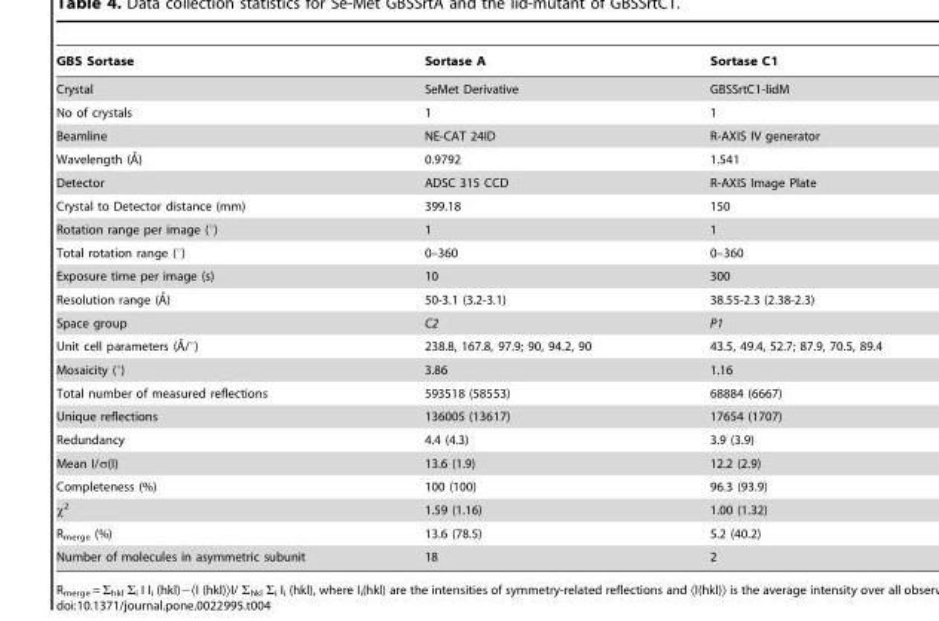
<table><thead><tr><td>GBS Sortase</td><td>Sortase A</td><td>Sortase C1</td></tr></thead><tbody><tr><td>Crystal</td><td>SeMet Derivative</td><td>GBSSrtC1-lidM</td></tr><tr><td>No of crystals</td><td>1</td><td>1</td></tr><tr><td>Beamline</td><td>NE-CAT 24ID</td><td>R-AXIS IV generator</td></tr><tr><td>Wavelength (A˚)</td><td>0.9792</td><td>1.541</td></tr><tr><td>Detector</td><td>ADSC 315 CCD</td><td>R-AXIS Image Plate</td></tr><tr><td>Crystal to Detector distance (mm)</td><td>399.18</td><td>150</td></tr><tr><td>Rotation range per image (°)</td><td>1</td><td>1</td></tr><tr><td>Total rotation range (°)</td><td>0–360</td><td>0–360</td></tr><tr><td>Exposure time per image (s)</td><td>10</td><td>300</td></tr><tr><td>Resolution range (A˚)</td><td>50-3.1 (3.2-3.1)</td><td>38.55-2.3 (2.38-2.3)</td></tr><tr><td>Space group</td><td>C2</td><td>P1</td></tr><tr><td>Unit cell parameters (A˚/u)</td><td>238.8, 167.8, 97.9; 90, 94.2, 90</td><td>43.5, 49.4, 52.7; 87.9, 70.5, 89.4</td></tr><tr><td>Mosaicity (°)</td><td>3.86</td><td>1.16</td></tr><tr><td>Total number of measured reflections</td><td>593518 (58553)</td><td>68884 (6667)</td></tr><tr><td>Unique reflections</td><td>136005 (13617)</td><td>17654 (1707)</td></tr><tr><td>Redundancy</td><td>4.4 (4.3)</td><td>3.9 (3.9)</td></tr><tr><td>Mean I/σ(I)</td><td>13.6 (1.9)</td><td>12.2 (2.9)</td></tr><tr><td>Completeness (%)</td><td>100 (100)</td><td>96.3 (93.9)</td></tr><tr><td>χ<sup>2</sup></td><td>1.59 (1.16)</td><td>1.00 (1.32)</td></tr><tr><td>R<sub>merge</sub> (%)</td><td>13.6 (78.5)</td><td>5.2 (40.2)</td></tr><tr><td>Number of molecules in asymmetric subunit</td><td>18</td><td>2</td></tr></tbody></table>